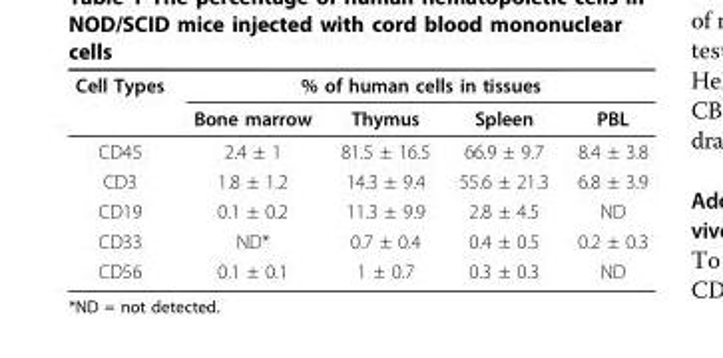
<table><thead><tr><td rowspan="2">Cell Types</td><td colspan="4">% of human cells in tissues</td></tr><tr><td>Bone marrow</td><td>Thymus</td><td>Spleen</td><td>PBL</td></tr></thead><tbody><tr><td>CD45</td><td>2.4 ± 1</td><td>81.5 ± 16.5</td><td>66.9 ± 9.7</td><td>8.4 ± 3.8</td></tr><tr><td>CD3</td><td>1.8 ± 1.2</td><td>14.3 ± 9.4</td><td>55.6 ± 21.3</td><td>6.8 ± 3.9</td></tr><tr><td>CD19</td><td>0.1 ± 0.2</td><td>11.3 ± 9.9</td><td>2.8 ± 4.5</td><td>ND</td></tr><tr><td>CD33</td><td>ND*</td><td>0.7 ± 0.4</td><td>0.4 ± 0.5</td><td>0.2 ± 0.3</td></tr><tr><td>CD56</td><td>0.1 ± 0.1</td><td>1 ± 0.7</td><td>0.3 ± 0.3</td><td>ND</td></tr></tbody></table>